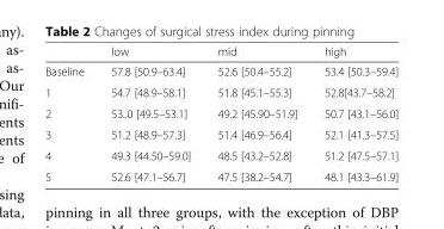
<table><thead><tr><td></td><td>low</td><td>mid</td><td>high</td></tr></thead><tbody><tr><td>Baseline</td><td>57.8 [50.9–63.4]</td><td>52.6 [50.4–55.2]</td><td>53.4 [50.3–59.4]</td></tr><tr><td>1</td><td>54.7 [48.9–58.1]</td><td>51.8 [45.1–55.3]</td><td>52.8[43.7–58.2]</td></tr><tr><td>2</td><td>53..0 [49.5–53.1]</td><td>49.2 [45.90–51.9]</td><td>50.7 [43.1–56.0]</td></tr><tr><td>3</td><td>51.2 [48.9–57.3]</td><td>51.4 [46.9–56.4]</td><td>52.1 [41.3–57.5]</td></tr><tr><td>4</td><td>49.3 [44.50–59.0]</td><td>48.5 [43.2–52.8]</td><td>51.2 [47.5–57.1]</td></tr><tr><td>5</td><td>52.6 [47.1–56.7]</td><td>47.5 [38.2–54.7]</td><td>48.1 [43.3–61.9]</td></tr></tbody></table>